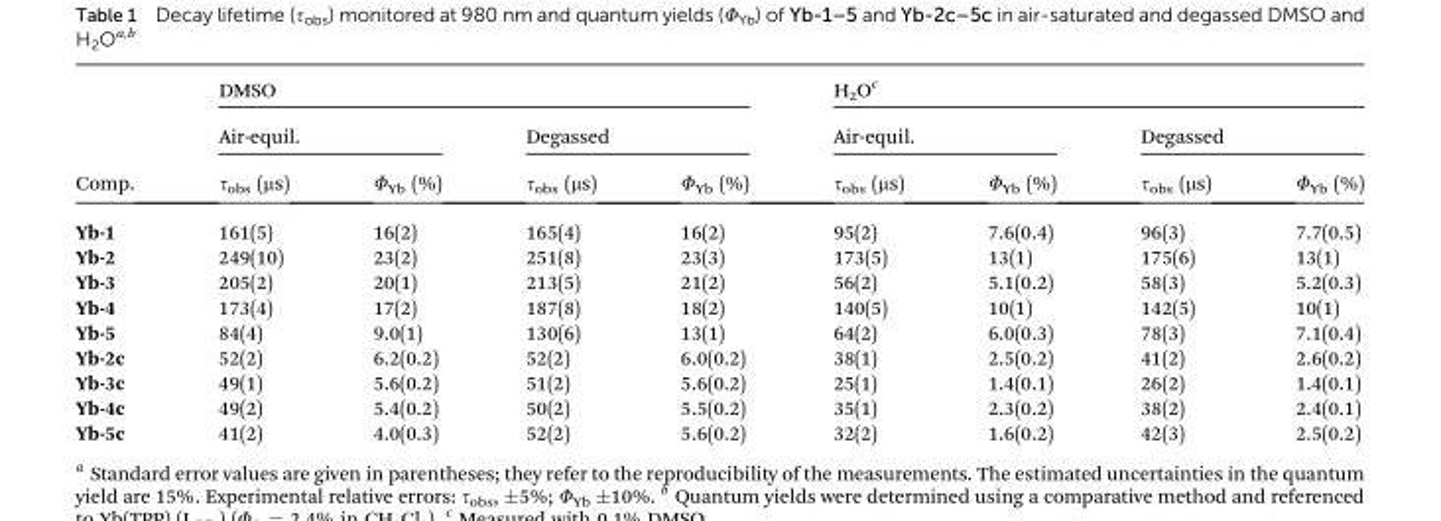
<table><thead><tr><td rowspan="3">Comp.</td><td colspan="4">DMSO</td><td colspan="4">H<sub>2</sub>O<sup>c</sup></td></tr><tr><td colspan="2">Air-equil.</td><td colspan="2">Degassed</td><td colspan="2">Air-equil.</td><td colspan="2">Degassed</td></tr><tr><td>τ<sub>obs</sub> (μs)</td><td>Φ<sub>Yb</sub> (%)</td><td>τ<sub>obs</sub> (μs)</td><td>Φ<sub>Yb</sub> (%)</td><td>τ<sub>obs</sub> (μs)</td><td>Φ<sub>Yb</sub> (%)</td><td>τ<sub>obs</sub> (μs)</td><td>Φ<sub>Yb</sub> (%)</td></tr></thead><tbody><tr><td>Yb-1</td><td>161(5)</td><td>16(2)</td><td>165(4)</td><td>16(2)</td><td>95(2)</td><td>7.6(0.4)</td><td>96(3)</td><td>7.7(0.5)</td></tr><tr><td>Yb-2</td><td>249(10)</td><td>23(2)</td><td>251(8)</td><td>23(3)</td><td>173(5)</td><td>13(1)</td><td>175(6)</td><td>13(1)</td></tr><tr><td>Yb-3</td><td>205(2)</td><td>20(1)</td><td>213(5)</td><td>21(2)</td><td>56(2)</td><td>5.1(0.2)</td><td>58(3)</td><td>5.2(0.3)</td></tr><tr><td>Yb-4</td><td>173(4)</td><td>17(2)</td><td>187(8)</td><td>18(2)</td><td>140(5)</td><td>10(1)</td><td>142(5)</td><td>10(1)</td></tr><tr><td>Yb-5</td><td>84(4)</td><td>9.0(1)</td><td>130(6)</td><td>13(1)</td><td>64(2)</td><td>6.0(0.3)</td><td>78(3)</td><td>7.1(0.4)</td></tr><tr><td>Yb-2c</td><td>52(2)</td><td>6.2(0.2)</td><td>52(2)</td><td>6.0(0.2)</td><td>38(1)</td><td>2.5(0.2)</td><td>41(2)</td><td>2.6(0.2)</td></tr><tr><td>Yb-3c</td><td>49(1)</td><td>5.6(0.2)</td><td>51(2)</td><td>5.6(0.2)</td><td>25(1)</td><td>1.4(0.1)</td><td>26(2)</td><td>1.4(0.1)</td></tr><tr><td>Yb-4c</td><td>49(2)</td><td>5.4(0.2)</td><td>50(2)</td><td>5.5(0.2)</td><td>35(1)</td><td>2.3(0.2)</td><td>38(2)</td><td>2.4(0.1)</td></tr><tr><td>Yb-5c</td><td>41(2)</td><td>4.0(0.3)</td><td>52(2)</td><td>5.6(0.2)</td><td>32(2)</td><td>1.6(0.2)</td><td>42(3)</td><td>2.5(0.2)</td></tr></tbody></table>